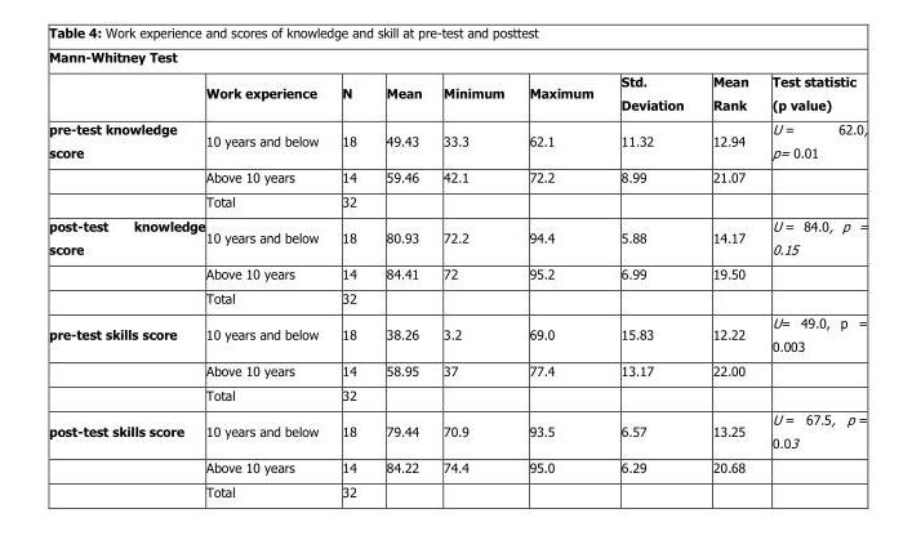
<table><thead><tr><td colspan="9">Mann-Whitney Test</td></tr><tr><td></td><td>Work experience</td><td>N</td><td>Mean</td><td>Minimum</td><td>Maximum</td><td>Std. Deviation</td><td>Mean Rank</td><td>Test statistic (p value)</td></tr></thead><tbody><tr><td rowspan="3">pre-test knowledge score</td><td>10 years and below</td><td>18</td><td>49.43</td><td>33.3</td><td>62.1</td><td>11.32</td><td>12.94</td><td>U = 62.0, p= 0.01</td></tr><tr><td>Above 10 years</td><td>14</td><td>59.46</td><td>42.1</td><td>72.2</td><td>8.99</td><td>21.07</td><td></td></tr><tr><td>Total</td><td>32</td><td></td><td></td><td></td><td></td><td></td><td></td></tr><tr><td rowspan="3">post-test knowledge score</td><td>10 years and below</td><td>18</td><td>80.93</td><td>72.2</td><td>94.4</td><td>5.88</td><td>14.17</td><td>U = 84.0, p = 0.15</td></tr><tr><td>Above 10 years</td><td>14</td><td>84.41</td><td>72</td><td>95.2</td><td>6.99</td><td>19.50</td><td></td></tr><tr><td>Total</td><td>32</td><td></td><td></td><td></td><td></td><td></td><td></td></tr><tr><td rowspan="3">pre-test skills score</td><td>10 years and below</td><td>18</td><td>38.26</td><td>3.2</td><td>69.0</td><td>15.83</td><td>12.22</td><td>U= 49.0, p = 0.003</td></tr><tr><td>Above 10 years</td><td>14</td><td>58.95</td><td>37</td><td>77.4</td><td>13.17</td><td>22.00</td><td></td></tr><tr><td>Total</td><td>32</td><td></td><td></td><td></td><td></td><td></td><td></td></tr><tr><td rowspan="3">post-test skills score</td><td>10 years and below</td><td>18</td><td>79.44</td><td>70.9</td><td>93.5</td><td>6.57</td><td>13.25</td><td>U = 67.5, p = 0.03</td></tr><tr><td>Above 10 years</td><td>14</td><td>84.22</td><td>74.4</td><td>95.0</td><td>6.29</td><td>20.68</td><td></td></tr><tr><td>Total</td><td>32</td><td></td><td></td><td></td><td></td><td></td><td></td></tr></tbody></table>